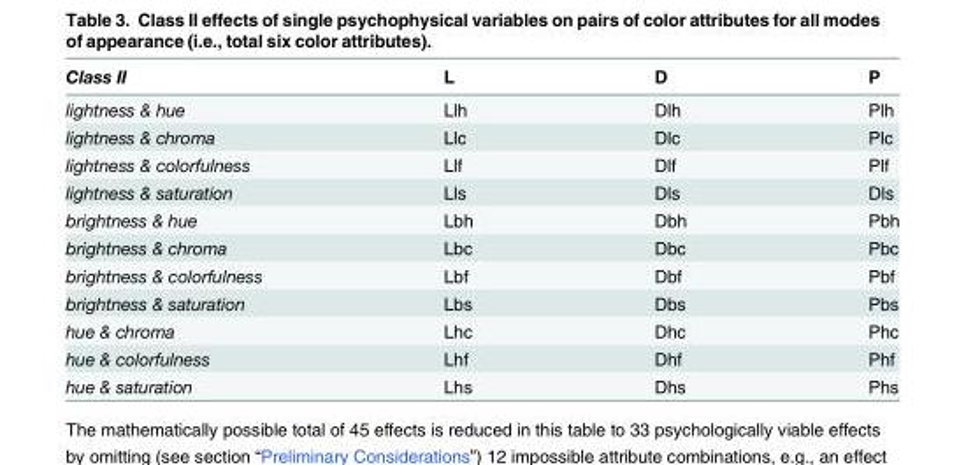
<table><thead><tr><td>Class II</td><td>L</td><td>D</td><td>P</td></tr></thead><tbody><tr><td>lightness &amp; hue</td><td>Llh</td><td>Dlh</td><td>Plh</td></tr><tr><td>lightness &amp; chroma</td><td>Llc</td><td>Dlc</td><td>Plc</td></tr><tr><td>lightness &amp; colorfulness</td><td>Llf</td><td>Dlf</td><td>Plf</td></tr><tr><td>lightness &amp; saturation</td><td>Lls</td><td>Dls</td><td>Dls</td></tr><tr><td>brightness &amp; hue</td><td>Lbh</td><td>Dbh</td><td>Pbh</td></tr><tr><td>brightness &amp; chroma</td><td>Lbc</td><td>Dbc</td><td>Pbc</td></tr><tr><td>brightness &amp; colorfulness</td><td>Lbf</td><td>Dbf</td><td>Pbf</td></tr><tr><td>brightness &amp; saturation</td><td>Lbs</td><td>Dbs</td><td>Pbs</td></tr><tr><td>hue &amp; chroma</td><td>Lhc</td><td>Dhc</td><td>Phc</td></tr><tr><td>hue &amp; colorfulness</td><td>Lhf</td><td>Dhf</td><td>Phf</td></tr><tr><td>hue &amp; saturation</td><td>Lhs</td><td>Dhs</td><td>Phs</td></tr></tbody></table>